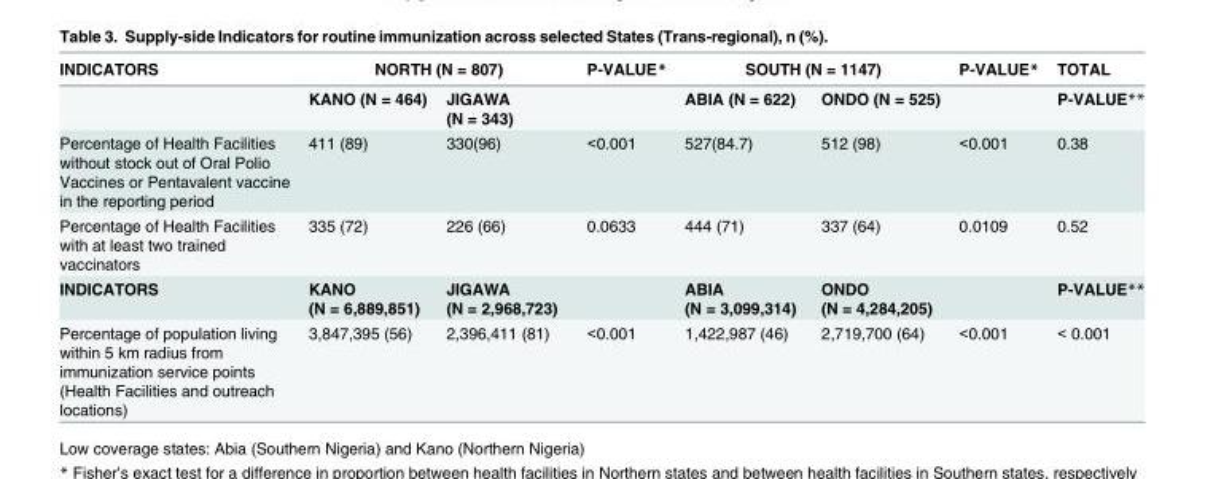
<table><thead><tr><td rowspan="2">INDICATORS</td><td colspan="2">NORTH (N = 807)</td><td rowspan="2">P-VALUE*</td><td colspan="2">SOUTH (N = 1147)</td><td rowspan="2">P-VALUE*</td><td rowspan="2">TOTAL P-VALUE**</td></tr><tr><td>KANO (N = 464)</td><td>JIGAWA (N = 343)</td><td>ABIA (N = 622)</td><td>ONDO (N = 525)</td></tr></thead><tbody><tr><td>Percentage of Health Facilities without stock out of Oral Polio Vaccines or Pentavalent vaccine in the reporting period</td><td>411 (89)</td><td>330(96)</td><td>&lt;0.001</td><td>527(84.7)</td><td>512 (98)</td><td>&lt;0.001</td><td>0.38</td></tr><tr><td>Percentage of Health Facilities with at least two trained vaccinators</td><td>335 (72)</td><td>226 (66)</td><td>0.0633</td><td>444 (71)</td><td>337 (64)</td><td>0.0109</td><td>0.52</td></tr><tr><td>INDICATORS</td><td>KANO (N = 6,889,851)</td><td>JIGAWA (N = 2,968,723)</td><td></td><td>ABIA (N = 3,099,314)</td><td>ONDO (N = 4,284,205)</td><td></td><td>P-VALUE**</td></tr><tr><td>Percentage of population living within 5 km radius from immunization service points (Health Facilities and outreach locations)</td><td>3,847,395 (56)</td><td>2,396,411 (81)</td><td>&lt;0.001</td><td>1,422,987 (46)</td><td>2,719,700 (64)</td><td>&lt;0.001</td><td>&lt; 0.001</td></tr></tbody></table>